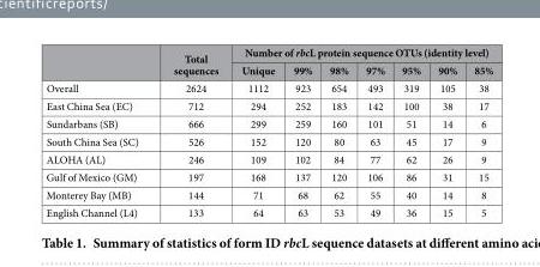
<table><thead><tr><td rowspan="2"></td><td rowspan="2">Total sequences</td><td colspan="7">Number of rbcL protein sequence OTUs (identity level)</td></tr><tr><td>Unique</td><td>99%</td><td>98%</td><td>97%</td><td>95%</td><td>90%</td><td>85%</td></tr></thead><tbody><tr><td>Overall</td><td>2624</td><td>1112</td><td>923</td><td>654</td><td>493</td><td>319</td><td>105</td><td>38</td></tr><tr><td>East China Sea (EC)</td><td>712</td><td>294</td><td>252</td><td>183</td><td>142</td><td>100</td><td>38</td><td>17</td></tr><tr><td>Sundarbans (SB)</td><td>666</td><td>299</td><td>259</td><td>160</td><td>101</td><td>51</td><td>14</td><td>6</td></tr><tr><td>South China Sea (SC)</td><td>526</td><td>152</td><td>120</td><td>80</td><td>63</td><td>45</td><td>17</td><td>9</td></tr><tr><td>ALOHA (AL)</td><td>246</td><td>109</td><td>102</td><td>84</td><td>77</td><td>62</td><td>26</td><td>9</td></tr><tr><td>Gulf of Mexico (GM)</td><td>197</td><td>168</td><td>137</td><td>120</td><td>106</td><td>86</td><td>31</td><td>15</td></tr><tr><td>Monterey Bay (MB)</td><td>144</td><td>71</td><td>68</td><td>62</td><td>55</td><td>40</td><td>14</td><td>8</td></tr><tr><td>English Channel (L4)</td><td>133</td><td>64</td><td>63</td><td>53</td><td>49</td><td>36</td><td>15</td><td>5</td></tr></tbody></table>